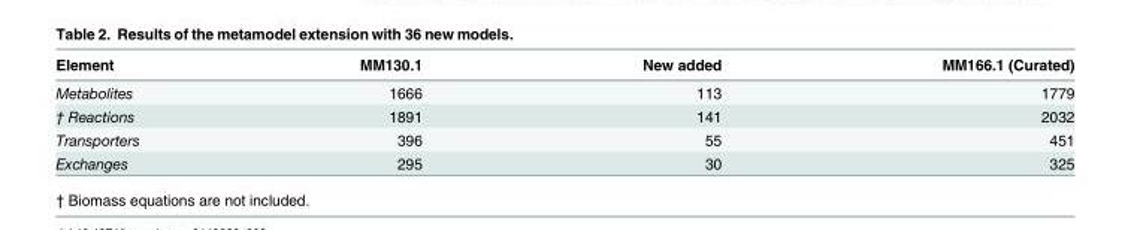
<table><thead><tr><td>Element</td><td>MM130.1</td><td>New added</td><td>MM166.1 (Curated)</td></tr></thead><tbody><tr><td>Metabolites</td><td>1666</td><td>113</td><td>1779</td></tr><tr><td>† Reactions</td><td>1891</td><td>141</td><td>2032</td></tr><tr><td>Transporters</td><td>396</td><td>55</td><td>451</td></tr><tr><td>Exchanges</td><td>295</td><td>30</td><td>325</td></tr></tbody></table>